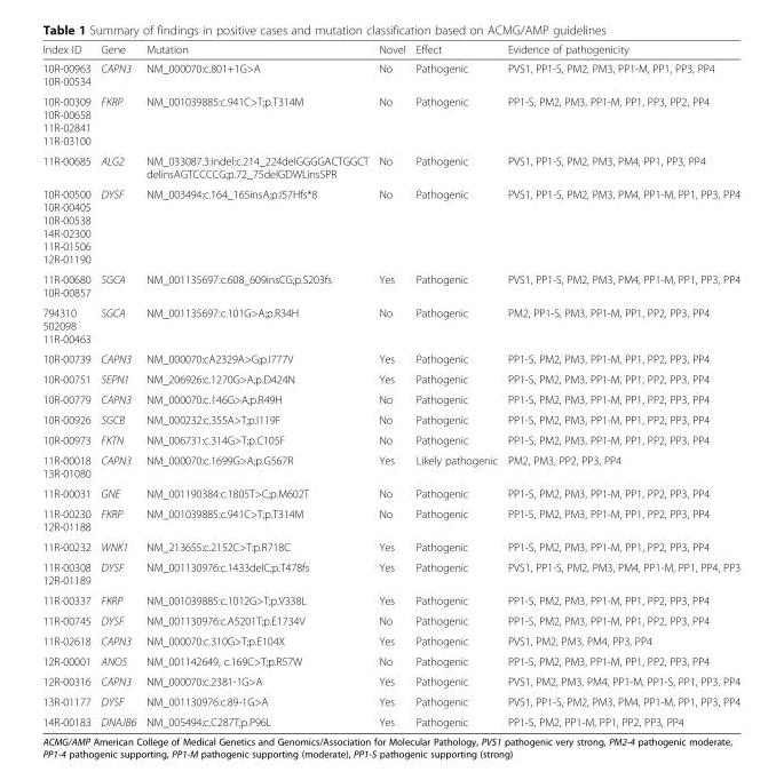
<table><thead><tr><td>Index ID</td><td>Gene</td><td>Mutation</td><td>Novel</td><td>Effect</td><td>Evidence of pathogenicity</td></tr></thead><tbody><tr><td>10R-00963 10R-00534</td><td>CAPN3</td><td>NM_000070:c.801+1G&gt;A</td><td>No</td><td>Pathogenic</td><td>PVS1, PP1-S, PM2, PM3, PP1-M, PP1, PP3, PP4</td></tr><tr><td>10R-00309 10R-00658 11R-02841 11R-03100</td><td>FKRP</td><td>NM_001039885:c.941C&gt;T;p.T314M</td><td>No</td><td>Pathogenic</td><td>PP1-S, PM2, PM3, PP1-M, PP1, PP3, PP2, PP4</td></tr><tr><td>11R-00685</td><td>ALG2</td><td>NM_033087.3:indel:c.214_224delGGGGACTGGCT delinsAGTCCCCG;p.72_75delGDWLinsSPR</td><td>No</td><td>Pathogenic</td><td>PVS1, PP1-S, PM2, PM3, PM4, PP1, PP3, PP4</td></tr><tr><td>10R-00500 10R-00405 10R-00538 14R-02300 11R-01506 12R-01190</td><td>DYSF</td><td>NM_003494:c.164_165insA;p.I57Hfs*8</td><td>No</td><td>Pathogenic</td><td>PVS1, PP1-S, PM2, PM3, PM4, PP1-M, PP1, PP3, PP4</td></tr><tr><td>11R-00680 10R-00857</td><td>SGCA</td><td>NM_001135697:c.608_609insCG;p.S203fs</td><td>Yes</td><td>Pathogenic</td><td>PVS1, PP1-S, PM2, PM3, PM4, PP1-M, PP1, PP3, PP4</td></tr><tr><td>794310 502098 11R-00463</td><td>SGCA</td><td>NM_001135697:c.101G&gt;A;p.R34H</td><td>No</td><td>Pathogenic</td><td>PM2, PP1-S, PM3, PP1-M, PP1, PP2, PP3, PP4</td></tr><tr><td>10R-00739</td><td>CAPN3</td><td>NM_000070:cA2329A&gt;G;p.I777V</td><td>Yes</td><td>Pathogenic</td><td>PP1-S, PM2, PM3, PP1-M, PP1, PP2, PP3, PP4</td></tr><tr><td>10R-00751</td><td>SEPN1</td><td>NM_206926:c.1270G&gt;A;p.D424N</td><td>Yes</td><td>Pathogenic</td><td>PP1-S, PM2, PM3, PP1-M, PP1, PP2, PP3, PP4</td></tr><tr><td>10R-00779</td><td>CAPN3</td><td>NM_000070:c.146G&gt;A;p.R49H</td><td>No</td><td>Pathogenic</td><td>PP1-S, PM2, PM3, PP1-M, PP1, PP2, PP3, PP4</td></tr><tr><td>10R-00926</td><td>SGCB</td><td>NM_000232:c.355A&gt;T;p.I119F</td><td>No</td><td>Pathogenic</td><td>PP1-S, PM2, PM3, PP1-M, PP1, PP2, PP3, PP4</td></tr><tr><td>10R-00973</td><td>FKTN</td><td>NM_006731:c.314G&gt;T;p.C105F</td><td>No</td><td>Pathogenic</td><td>PP1-S, PM2, PM3, PP1-M, PP1, PP2, PP3, PP4</td></tr><tr><td>11R-00018 13R-01080</td><td>CAPN3</td><td>NM_000070:c.1699G&gt;A;p.G567R</td><td>Yes</td><td>Likely pathogenic</td><td>PM2, PM3, PP2, PP3, PP4</td></tr><tr><td>11R-00031</td><td>GNE</td><td>NM_001190384:c.1805T&gt;C;p.M602T</td><td>No</td><td>Pathogenic</td><td>PP1-S, PM2, PM3, PP1-M, PP1, PP2, PP3, PP4</td></tr><tr><td>11R-00230 12R-01188</td><td>FKRP</td><td>NM_001039885:c.941C&gt;T;p.T314M</td><td>No</td><td>Pathogenic</td><td>PP1-S, PM2, PM3, PP1-M, PP1, PP2, PP3, PP4</td></tr><tr><td>11R-00232</td><td>WNK1</td><td>NM_213655:c.2152C&gt;T:p.R718C</td><td>Yes</td><td>Pathogenic</td><td>PP1-S, PM2, PM3, PP1-M, PP1, PP2, PP3, PP4</td></tr><tr><td>11R-00308 12R-01189</td><td>DYSF</td><td>NM_001130976:c.1433delC;p.T478fs</td><td>Yes</td><td>Pathogenic</td><td>PVS1, PP1-S, PM2, PM3, PM4, PP1-M, PP1, PP4, PP3</td></tr><tr><td>11R-00337</td><td>FKRP</td><td>NM_001039885:c.1012G&gt;T;p.V338L</td><td>Yes</td><td>Pathogenic</td><td>PP1-S, PM2, PM3, PP1-M, PP1, PP2, PP3, PP4</td></tr><tr><td>11R-00745</td><td>DYSF</td><td>NM_001130976:c.A5201T;p.E1734V</td><td>No</td><td>Pathogenic</td><td>PP1-S, PM2, PM3, PP1-M, PP1, PP2, PP3, PP4</td></tr><tr><td>11R-02618</td><td>CAPN3</td><td>NM_000070:c.310G&gt;T;p.E104X</td><td>Yes</td><td>Pathogenic</td><td>PVS1, PM2, PM3, PM4, PP3, PP4</td></tr><tr><td>12R-00001</td><td>ANO5</td><td>NM_001142649, c.169C&gt;T;p.R57W</td><td>No</td><td>Pathogenic</td><td>PP1-S, PM2, PM3, PP1-M, PP1, PP2, PP3, PP4</td></tr><tr><td>12R-00316</td><td>CAPN3</td><td>NM_000070:c.2381-1G&gt;A</td><td>Yes</td><td>Pathogenic</td><td>PVS1, PM2, PM3, PM4, PP1-M, PP1-S, PP1, PP3, PP4</td></tr><tr><td>13R-01177</td><td>DYSF</td><td>NM_001130976:c.89-1G&gt;A</td><td>Yes</td><td>Pathogenic</td><td>PVS1, PP1-S, PM2, PM3, PM4, PP1-M, PP1, PP3, PP4</td></tr><tr><td>14R-00183</td><td>DNAJB6</td><td>NM_005494:c.C287T;p.P96L</td><td>Yes</td><td>Pathogenic</td><td>PP1-S, PM2, PP1-M, PP1, PP2, PP3, PP4</td></tr></tbody></table>